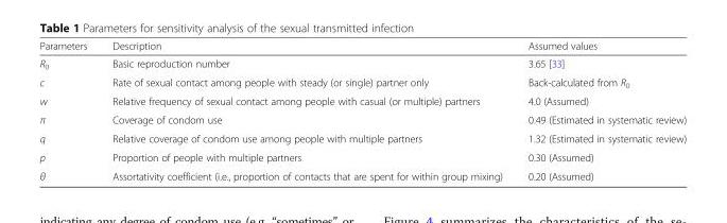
<table><thead><tr><td>Parameters</td><td>Description</td><td>Assumed values</td></tr></thead><tbody><tr><td>R<sub>0</sub></td><td>Basic reproduction number</td><td>3.65 [33]</td></tr><tr><td>c</td><td>Rate of sexual contact among people with steady (or single) partner only</td><td>Back-calculated from R<sub>0</sub></td></tr><tr><td>w</td><td>Relative frequency of sexual contact among people with casual (or multiple) partners</td><td>4.0 (Assumed)</td></tr><tr><td>π</td><td>Coverage of condom use</td><td>0.49 (Estimated in systematic review)</td></tr><tr><td>q</td><td>Relative coverage of condom use among people with multiple partners</td><td>1.32 (Estimated in systematic review)</td></tr><tr><td>p</td><td>Proportion of people with multiple partners</td><td>0.30 (Assumed)</td></tr><tr><td>θ</td><td>Assortativity coefficient (i.e., proportion of contacts that are spent for within group mixing)</td><td>0.20 (Assumed)</td></tr></tbody></table>